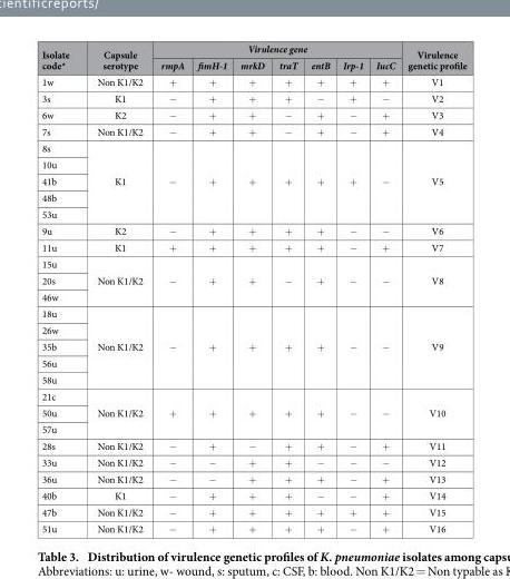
<table><thead><tr><td rowspan="2">Isolate code*</td><td rowspan="2">Capsule serotype</td><td colspan="7">Virulence gene</td><td rowspan="2">Virulence genetic profile</td></tr><tr><td>rmpA</td><td>fimH-1</td><td>mrkD</td><td>traT</td><td>entB</td><td>Irp-1</td><td>IucC</td></tr></thead><tbody><tr><td>1w</td><td>Non K1/K2</td><td>+</td><td>+</td><td>+</td><td>+</td><td>+</td><td>+</td><td>+</td><td>V1</td></tr><tr><td>3s</td><td>K1</td><td>−</td><td>+</td><td>+</td><td>+</td><td>−</td><td>+</td><td>−</td><td>V2</td></tr><tr><td>6w</td><td>K2</td><td>−</td><td>+</td><td>+</td><td>−</td><td>+</td><td>−</td><td>+</td><td>V3</td></tr><tr><td>7s</td><td>Non K1/K2</td><td>−</td><td>+</td><td>+</td><td>−</td><td>+</td><td>−</td><td>+</td><td>V4</td></tr><tr><td>8s</td><td rowspan="5">K1</td><td rowspan="5">−</td><td rowspan="5">+</td><td rowspan="5">+</td><td rowspan="5">+</td><td rowspan="5">+</td><td rowspan="5">+</td><td rowspan="5">−</td><td rowspan="5">V5</td></tr><tr><td>10u</td></tr><tr><td>41b</td></tr><tr><td>48b</td></tr><tr><td>53u</td></tr><tr><td>9u</td><td>K2</td><td>−</td><td>+</td><td>+</td><td>+</td><td>+</td><td>−</td><td>−</td><td>V6</td></tr><tr><td>11u</td><td>K1</td><td>+</td><td>+</td><td>+</td><td>+</td><td>+</td><td>−</td><td>+</td><td>V7</td></tr><tr><td>15u</td><td rowspan="3">Non K1/K2</td><td rowspan="3">−</td><td rowspan="3">+</td><td rowspan="3">+</td><td rowspan="3">−</td><td rowspan="3">+</td><td rowspan="3">−</td><td rowspan="3">−</td><td rowspan="3">V8</td></tr><tr><td>20s</td></tr><tr><td>46w</td></tr><tr><td>18u</td><td rowspan="5">Non K1/K2</td><td rowspan="5">−</td><td rowspan="5">+</td><td rowspan="5">+</td><td rowspan="5">+</td><td rowspan="5">+</td><td rowspan="5">−</td><td rowspan="5">−</td><td rowspan="5">V9</td></tr><tr><td>26w</td></tr><tr><td>35b</td></tr><tr><td>56u</td></tr><tr><td>58u</td></tr><tr><td>21c</td><td rowspan="3">Non K1/K2</td><td rowspan="3">+</td><td rowspan="3">+</td><td rowspan="3">+</td><td rowspan="3">+</td><td rowspan="3">+</td><td rowspan="3">−</td><td rowspan="3">−</td><td rowspan="3">V10</td></tr><tr><td>50u</td></tr><tr><td>57u</td></tr><tr><td>28s</td><td>Non K1/K2</td><td>−</td><td>+</td><td>−</td><td>+</td><td>+</td><td>−</td><td>+</td><td>V11</td></tr><tr><td>33u</td><td>Non K1/K2</td><td>−</td><td>−</td><td>+</td><td>+</td><td>−</td><td>−</td><td>−</td><td>V12</td></tr><tr><td>36u</td><td>Non K1/K2</td><td>−</td><td>−</td><td>+</td><td>+</td><td>+</td><td>−</td><td>+</td><td>V13</td></tr><tr><td>40b</td><td>K1</td><td>−</td><td>+</td><td>+</td><td>+</td><td>−</td><td>−</td><td>+</td><td>V14</td></tr><tr><td>47b</td><td>Non K1/K2</td><td>−</td><td>+</td><td>+</td><td>+</td><td>+</td><td>+</td><td>+</td><td>V15</td></tr><tr><td>51u</td><td>Non K1/K2</td><td>−</td><td>+</td><td>+</td><td>+</td><td>+</td><td>−</td><td>+</td><td>V16</td></tr></tbody></table>